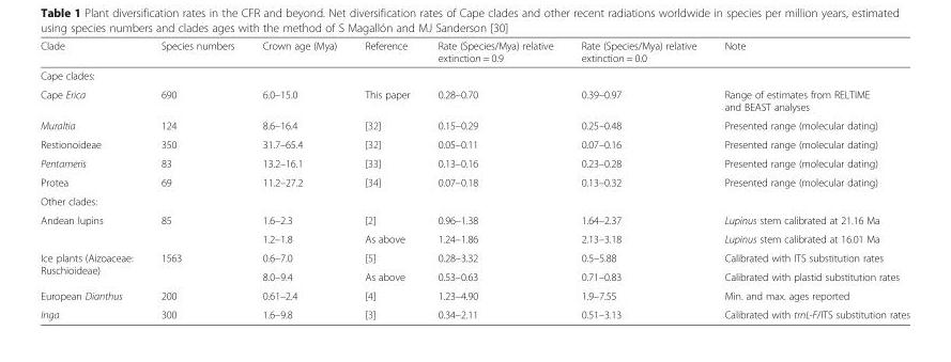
<table><thead><tr><td>Clade</td><td>Species numbers</td><td>Crown age (Mya)</td><td>Reference</td><td>Rate (Species/Mya) relative extinction = 0.9</td><td>Rate (Species/Mya) relative extinction = 0.0</td><td>Note</td></tr></thead><tbody><tr><td colspan="7">Cape clades:</td></tr><tr><td>Cape Erica</td><td>690</td><td>6.0–15.0</td><td>This paper</td><td>0.28–0.70</td><td>0.39–0.97</td><td>Range of estimates from RELTIME and BEAST analyses</td></tr><tr><td>Muraltia</td><td>124</td><td>8.6–16.4</td><td>[32]</td><td>0.15–0.29</td><td>0.25–0.48</td><td>Presented range (molecular dating)</td></tr><tr><td>Restionoideae</td><td>350</td><td>31.7–65.4</td><td>[32]</td><td>0.05–0.11</td><td>0.07–0.16</td><td>Presented range (molecular dating)</td></tr><tr><td>Pentameris</td><td>83</td><td>13.2–16.1</td><td>[33]</td><td>0.13–0.16</td><td>0.23–0.28</td><td>Presented range (molecular dating)</td></tr><tr><td>Protea</td><td>69</td><td>11.2–27.2</td><td>[34]</td><td>0.07–0.18</td><td>0.13–0.32</td><td>Presented range (molecular dating)</td></tr><tr><td colspan="7">Other clades:</td></tr><tr><td rowspan="2">Andean lupins</td><td rowspan="2">85</td><td>1.6–2.3</td><td>[2]</td><td>0.96–1.38</td><td>1.64–2.37</td><td>Lupinus stem calibrated at 21.16 Ma</td></tr><tr><td>1.2–1.8</td><td>As above</td><td>1.24–1.86</td><td>2.13–3.18</td><td>Lupinus stem calibrated at 16.01 Ma</td></tr><tr><td rowspan="2">Ice plants (Aizoaceae: Ruschioideae)</td><td rowspan="2">1563</td><td>0.6–7.0</td><td>[5]</td><td>0.28–3.32</td><td>0.5–5.88</td><td>Calibrated with ITS substitution rates</td></tr><tr><td>8.0–9.4</td><td>As above</td><td>0.53–0.63</td><td>0.71–0.83</td><td>Calibrated with plastid substitution rates</td></tr><tr><td>European Dianthus</td><td>200</td><td>0.61–2.4</td><td>[4]</td><td>1.23–4.90</td><td>1.9–7.55</td><td>Min. and max. ages reported</td></tr><tr><td>Inga</td><td>300</td><td>1.6–9.8</td><td>[3]</td><td>0.34–2.11</td><td>0.51–3.13</td><td>Calibrated with trnL-F/ITS substitution rates</td></tr></tbody></table>